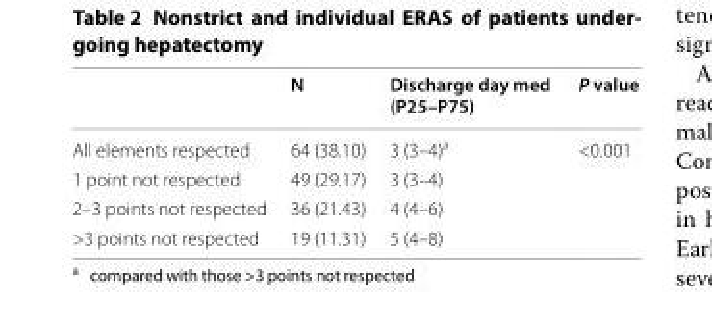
<table><thead><tr><td></td><td>N</td><td>Discharge day med (P25–P75)</td><td>P value</td></tr></thead><tbody><tr><td>All elements respected</td><td>64 (38.10)</td><td>3 (3–4)<sup>a</sup></td><td>&lt;0.001</td></tr><tr><td>1 point not respected</td><td>49 (29.17)</td><td>3 (3–4)</td><td></td></tr><tr><td>2–3 points not respected</td><td>36 (21.43)</td><td>4 (4–6)</td><td></td></tr><tr><td>&gt;3 points not respected</td><td>19 (11.31)</td><td>5 (4–8)</td><td></td></tr></tbody></table>